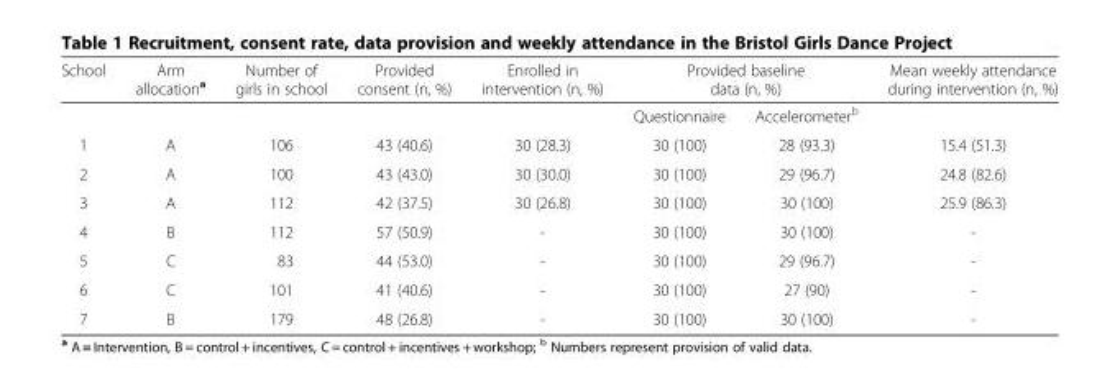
<table><thead><tr><td rowspan="2">School</td><td rowspan="2">Arm allocation<sup>a</sup></td><td rowspan="2">Number of girls in school</td><td rowspan="2">Provided consent (n, %)</td><td rowspan="2">Enrolled in intervention (n, %)</td><td colspan="2">Provided baseline data (n, %)</td><td rowspan="2">Mean weekly attendance during intervention (n, %)</td></tr><tr><td>Questionnaire</td><td>Accelerometer<sup>b</sup></td></tr></thead><tbody><tr><td>1</td><td>A</td><td>106</td><td>43 (40.6)</td><td>30 (28.3)</td><td>30 (100)</td><td>28 (93.3)</td><td>15.4 (51.3)</td></tr><tr><td>2</td><td>A</td><td>100</td><td>43 (43.0)</td><td>30 (30.0)</td><td>30 (100)</td><td>29 (96.7)</td><td>24.8 (82.6)</td></tr><tr><td>3</td><td>A</td><td>112</td><td>42 (37.5)</td><td>30 (26.8)</td><td>30 (100)</td><td>30 (100)</td><td>25.9 (86.3)</td></tr><tr><td>4</td><td>B</td><td>112</td><td>57 (50.9)</td><td>-</td><td>30 (100)</td><td>30 (100)</td><td>-</td></tr><tr><td>5</td><td>C</td><td>83</td><td>44 (53.0)</td><td>-</td><td>30 (100)</td><td>29 (96.7)</td><td>-</td></tr><tr><td>6</td><td>C</td><td>101</td><td>41 (40.6)</td><td>-</td><td>30 (100)</td><td>27 (90)</td><td>-</td></tr><tr><td>7</td><td>B</td><td>179</td><td>48 (26.8)</td><td>-</td><td>30 (100)</td><td>30 (100)</td><td>-</td></tr></tbody></table>